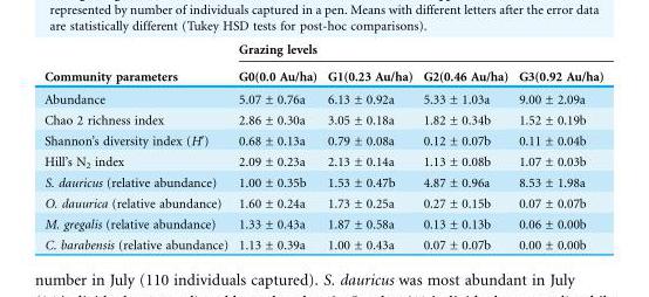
<table><thead><tr><td rowspan="2">Community parameters</td><td colspan="4">Grazing levels</td></tr><tr><td>G0(0.0 Au/ha)</td><td>G1(0.23 Au/ha)</td><td>G2(0.46 Au/ha)</td><td>G3(0.92 Au/ha)</td></tr></thead><tbody><tr><td>Abundance</td><td>5.07 ± 0.76a</td><td>6.13 ± 0.92a</td><td>5.33 ± 1.03a</td><td>9.00 ± 2.09a</td></tr><tr><td>Chao 2 richness index</td><td>2.86 ± 0.30a</td><td>3.05 ± 0.18a</td><td>1.82 ± 0.34b</td><td>1.52 ± 0.19b</td></tr><tr><td>Shannon’s diversity index (H′)</td><td>0.68 ± 0.13a</td><td>0.79 ± 0.08a</td><td>0.12 ± 0.07b</td><td>0.11 ± 0.04b</td></tr><tr><td>Hill’s N<sub>2</sub> index</td><td>2.09 ± 0.23a</td><td>2.13 ± 0.14a</td><td>1.13 ± 0.08b</td><td>1.07 ± 0.03b</td></tr><tr><td>S. dauricus (relative abundance)</td><td>1.00 ± 0.35b</td><td>1.53 ± 0.47b</td><td>4.87 ± 0.96a</td><td>8.53 ± 1.98a</td></tr><tr><td>O. dauurica (relative abundance)</td><td>1.60 ± 0.24a</td><td>1.73 ± 0.25a</td><td>0.27 ± 0.15b</td><td>0.07 ± 0.07b</td></tr><tr><td>M. gregalis (relative abundance)</td><td>1.33 ± 0.43a</td><td>1.87 ± 0.58a</td><td>0.13 ± 0.13b</td><td>0.06 ± 0.00b</td></tr><tr><td>C. barabensis (relative abundance)</td><td>1.13 ± 0.39a</td><td>1.00 ± 0.43a</td><td>0.07 ± 0.07b</td><td>0.00 ± 0.00b</td></tr></tbody></table>